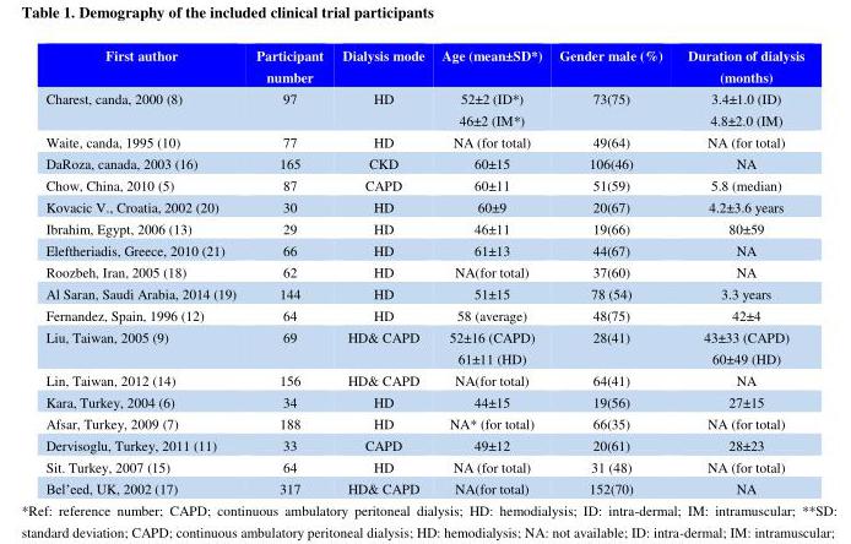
<table><thead><tr><td>First author</td><td>Participant number</td><td>Dialysis mode</td><td>Age (mean±SD*)</td><td>Gender male (%)</td><td>Duration of dialysis (months)</td></tr></thead><tbody><tr><td>Charest, canda, 2000 (8)</td><td>97</td><td>HD</td><td>52±2 (ID*) 46±2 (IM*)</td><td>73(75)</td><td>3.4±1.0 (ID) 4.8±2.0 (IM)</td></tr><tr><td>Waite, canda, 1995 (10)</td><td>77</td><td>HD</td><td>NA (for total)</td><td>49(64)</td><td>NA (for total)</td></tr><tr><td>DaRoza, canada, 2003 (16)</td><td>165</td><td>CKD</td><td>60±15</td><td>106(46)</td><td>NA</td></tr><tr><td>Chow, China, 2010 (5)</td><td>87</td><td>CAPD</td><td>60±11</td><td>51(59)</td><td>5.8 (median)</td></tr><tr><td>Kovacic V., Croatia, 2002 (20)</td><td>30</td><td>HD</td><td>60±9</td><td>20(67)</td><td>4.2±3.6 years</td></tr><tr><td>Ibrahim, Egypt, 2006 (13)</td><td>29</td><td>HD</td><td>46±11</td><td>19(66)</td><td>80±59</td></tr><tr><td>Eleftheriadis, Greece, 2010 (21)</td><td>66</td><td>HD</td><td>61±13</td><td>44(67)</td><td>NA</td></tr><tr><td>Roozbeh, Iran, 2005 (18)</td><td>62</td><td>HD</td><td>NA(for total)</td><td>37(60)</td><td>NA</td></tr><tr><td>Al Saran, Saudi Arabia, 2014 (19)</td><td>144</td><td>HD</td><td>51±15</td><td>78 (54)</td><td>3.3 years</td></tr><tr><td>Fernandez, Spain, 1996 (12)</td><td>64</td><td>HD</td><td>58 (average)</td><td>48(75)</td><td>42±4</td></tr><tr><td>Liu, Taiwan, 2005 (9)</td><td>69</td><td>HD&amp; CAPD</td><td>52±16 (CAPD) 61±11 (HD)</td><td>28(41)</td><td>43±33 (CAPD) 60±49 (HD)</td></tr><tr><td>Lin, Taiwan, 2012 (14)</td><td>156</td><td>HD&amp; CAPD</td><td>NA(for total)</td><td>64(41)</td><td>NA</td></tr><tr><td>Kara, Turkey, 2004 (6)</td><td>34</td><td>HD</td><td>44±15</td><td>19(56)</td><td>27±15</td></tr><tr><td>Afsar, Turkey, 2009 (7)</td><td>188</td><td>HD</td><td>NA* (for total)</td><td>66(35)</td><td>NA (for total)</td></tr><tr><td>Dervisoglu, Turkey, 2011 (11)</td><td>33</td><td>CAPD</td><td>49±12</td><td>20(61)</td><td>28±23</td></tr><tr><td>Sit. Turkey, 2007 (15)</td><td>64</td><td>HD</td><td>NA (for total)</td><td>31 (48)</td><td>NA (for total)</td></tr><tr><td>Bel’eed, UK, 2002 (17)</td><td>317</td><td>HD&amp; CAPD</td><td>NA(for total)</td><td>152(70)</td><td>NA</td></tr></tbody></table>